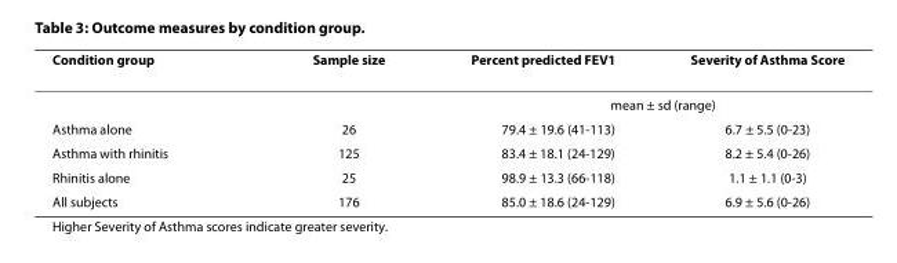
<table><thead><tr><td>Condition group</td><td>Sample size</td><td>Percent predicted FEV<sub>1</sub></td><td>Severity of Asthma Score</td></tr></thead><tbody><tr><td></td><td></td><td colspan="2">mean ± sd (range)</td></tr><tr><td>Asthma alone</td><td>26</td><td>79.4 ± 19.6 (41-113)</td><td>6.7 ± 5.5 (0-23)</td></tr><tr><td>Asthma with rhinitis</td><td>125</td><td>83.4 ± 18.1 (24-129)</td><td>8.2 ± 5.4 (0-26)</td></tr><tr><td>Rhinitis alone</td><td>25</td><td>98.9 ± 13.3 (66-118)</td><td>1.1 ± 1.1 (0-3)</td></tr><tr><td>All subjects</td><td>176</td><td>85.0 ± 18.6 (24-129)</td><td>6.9 ± 5.6 (0-26)</td></tr></tbody></table>